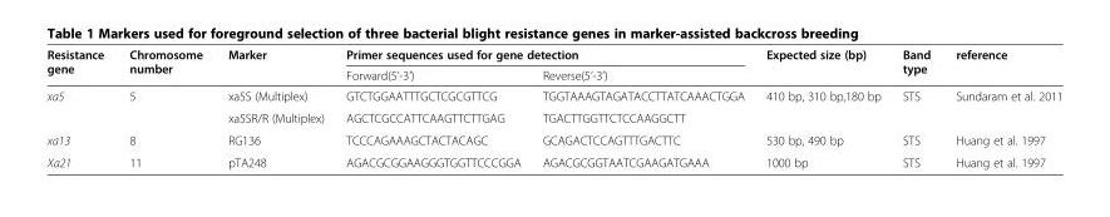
<table><thead><tr><td rowspan="2">Resistance gene</td><td rowspan="2">Chromosome number</td><td rowspan="2">Marker</td><td colspan="2">Primer sequences used for gene detection</td><td rowspan="2">Expected size (bp)</td><td rowspan="2">Band type</td><td rowspan="2">reference</td></tr><tr><td>Forward(5’-3’)</td><td>Reverse(5’-3’)</td></tr></thead><tbody><tr><td rowspan="2">xa5</td><td rowspan="2">5</td><td>xa5S (Multiplex)</td><td>GTCTGGAATTTGCTCGCGTTCG</td><td>TGGTAAAGTAGATACCTTATCAAACTGGA</td><td rowspan="2">410 bp, 310 bp,180 bp</td><td rowspan="2">STS</td><td rowspan="2">Sundaram et al. 2011</td></tr><tr><td>xa5SR/R (Multiplex)</td><td>AGCTCGCCATTCAAGTTCTTGAG</td><td>TGACTTGGTTCTCCAAGGCTT</td></tr><tr><td>xa13</td><td>8</td><td>RG136</td><td>TCCCAGAAAGCTACTACAGC</td><td>GCAGACTCCAGTTTGACTTC</td><td>530 bp, 490 bp</td><td>STS</td><td>Huang et al. 1997</td></tr><tr><td>Xa21</td><td>11</td><td>pTA248</td><td>AGACGCGGAAGGGTGGTTCCCGGA</td><td>AGACGCGGTAATCGAAGATGAAA</td><td>1000 bp</td><td>STS</td><td>Huang et al. 1997</td></tr></tbody></table>